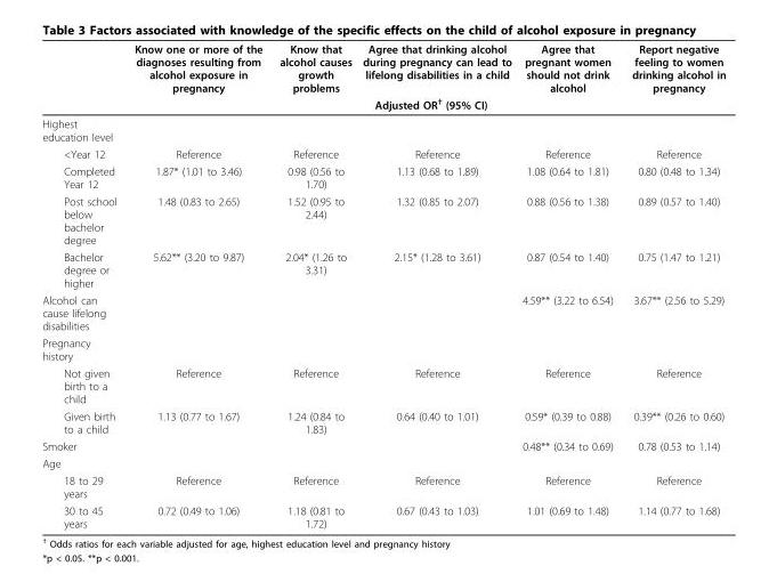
<table><thead><tr><td rowspan="2"></td><td>Know one or more of the diagnoses resulting from alcohol exposure in pregnancy</td><td>Know that alcohol causes growth problems</td><td>Agree that drinking alcohol during pregnancy can lead to lifelong disabilities in a child</td><td>Agree that pregnant women should not drink alcohol</td><td>Report negative feeling to women drinking alcohol in pregnancy</td></tr><tr><td colspan="5">Adjusted OR<sup>†</sup> (95% CI)</td></tr></thead><tbody><tr><td colspan="6">Highest education level</td></tr><tr><td>&lt;Year 12</td><td>Reference</td><td>Reference</td><td>Reference</td><td>Reference</td><td>Reference</td></tr><tr><td>Completed Year 12</td><td>1.87* (1.01 to 3.46)</td><td>0.98 (0.56 to 1.70)</td><td>1.13 (0.68 to 1.89)</td><td>1.08 (0.64 to 1.81)</td><td>0.80 (0.48 to 1.34)</td></tr><tr><td>Post school below bachelor degree</td><td>1.48 (0.83 to 2.65)</td><td>1.52 (0.95 to 2.44)</td><td>1.32 (0.85 to 2.07)</td><td>0.88 (0.56 to 1.38)</td><td>0.89 (0.57 to 1.40)</td></tr><tr><td>Bachelor degree or higher</td><td>5.62** (3.20 to 9.87)</td><td>2.04* (1.26 to 3.31)</td><td>2.15* (1.28 to 3.61)</td><td>0.87 (0.54 to 1.40)</td><td>0.75 (1.47 to 1.21)</td></tr><tr><td>Alcohol can cause lifelong disabilities</td><td></td><td></td><td></td><td>4.59** (3.22 to 6.54)</td><td>3.67** (2.56 to 5.29)</td></tr><tr><td colspan="6">Pregnancy history</td></tr><tr><td>Not given birth to a child</td><td>Reference</td><td>Reference</td><td>Reference</td><td>Reference</td><td>Reference</td></tr><tr><td>Given birth to a child</td><td>1.13 (0.77 to 1.67)</td><td>1.24 (0.84 to 1.83)</td><td>0.64 (0.40 to 1.01)</td><td>0.59* (0.39 to 0.88)</td><td>0.39** (0.26 to 0.60)</td></tr><tr><td>Smoker</td><td></td><td></td><td></td><td>0.48** (0.34 to 0.69)</td><td>0.78 (0.53 to 1.14)</td></tr><tr><td colspan="6">Age</td></tr><tr><td>18 to 29 years</td><td>Reference</td><td>Reference</td><td>Reference</td><td>Reference</td><td>Reference</td></tr><tr><td>30 to 45 years</td><td>0.72 (0.49 to 1.06)</td><td>1.18 (0.81 to 1.72)</td><td>0.67 (0.43 to 1.03)</td><td>1.01 (0.69 to 1.48)</td><td>1.14 (0.77 to 1.68)</td></tr></tbody></table>